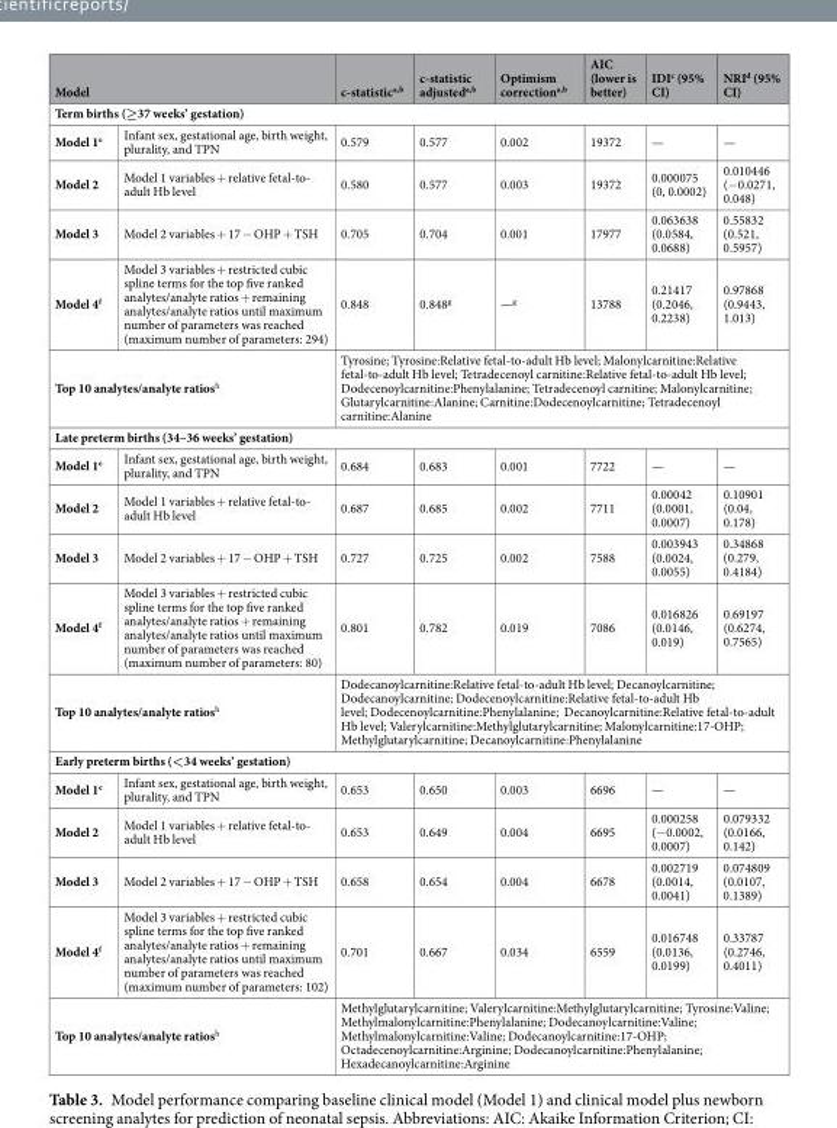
<table><thead><tr><td colspan="2">Model</td><td>c-statistic<sup>a,b</sup></td><td>c-statistic adjusted<sup>a,b</sup></td><td>Optimism correction<sup>a,b</sup></td><td>AIC (lower is better)</td><td>IDI<sup>c</sup> (95% CI)</td><td>NRI<sup>d</sup> (95% CI)</td></tr><tr><td colspan="8">Term births (≥37 weeks’ gestation)</td></tr><tr><td>Model 1<sup>e</sup></td><td>Infant sex, gestational age, birth weight, plurality, and TPN</td><td>0.579</td><td>0.577</td><td>0.002</td><td>19372</td><td>—</td><td>—</td></tr></thead><tbody><tr><td>Model 2</td><td>Model 1 variables + relative fetal-to- adult Hb level</td><td>0.580</td><td>0.577</td><td>0.003</td><td>19372</td><td>0.000075 (0, 0.0002)</td><td>0.010446 (−0.0271, 0.048)</td></tr><tr><td>Model 3</td><td>Model 2 variables + 17 − OHP + TSH</td><td>0.705</td><td>0.704</td><td>0.001</td><td>17977</td><td>0.063638 (0.0584, 0.0688)</td><td>0.55832 (0.521, 0.5957)</td></tr><tr><td>Model 4<sup>f</sup></td><td>Model 3 variables + restricted cubic spline terms for the top five ranked analytes/analyte ratios + remaining analytes/analyte ratios until maximum number of parameters was reached (maximum number of parameters: 294)</td><td>0.848</td><td>0.848<sup>g</sup></td><td>—<sup>g</sup></td><td>13788</td><td>0.21417 (0.2046, 0.2238)</td><td>0.97868 (0.9443, 1.013)</td></tr><tr><td colspan="2">Top 10 analytes/analyte ratios<sup>h</sup></td><td colspan="6">Tyrosine; Tyrosine:Relative fetal-to-adult Hb level; Malonylcarnitine:Relative fetal-to-adult Hb level; Tetradecenoyl carnitine:Relative fetal-to-adult Hb level; Dodecenoylcarnitine:Phenylalanine; Tetradecenoyl carnitine; Malonylcarnitine; Glutarylcarnitine:Alanine; Carnitine:Dodecenoylcarnitine; Tetradecenoyl carnitine:Alanine</td></tr><tr><td colspan="8">Late preterm births (34–36 weeks’ gestation)</td></tr><tr><td>Model 1<sup>e</sup></td><td>Infant sex, gestational age, birth weight, plurality, and TPN</td><td>0.684</td><td>0.683</td><td>0.001</td><td>7722</td><td>—</td><td>—</td></tr><tr><td>Model 2</td><td>Model 1 variables + relative fetal-to- adult Hb level</td><td>0.687</td><td>0.685</td><td>0.002</td><td>7711</td><td>0.00042 (0.0001, 0.0007)</td><td>0.10901 (0.04, 0.178)</td></tr><tr><td>Model 3</td><td>Model 2 variables + 17 − OHP + TSH</td><td>0.727</td><td>0.725</td><td>0.002</td><td>7588</td><td>0.003943 (0.0024, 0.0055)</td><td>0.34868 (0.279, 0.4184)</td></tr><tr><td>Model 4<sup>f</sup></td><td>Model 3 variables + restricted cubic spline terms for the top five ranked analytes/analyte ratios + remaining analytes/analyte ratios until maximum number of parameters was reached (maximum number of parameters: 80)</td><td>0.801</td><td>0.782</td><td>0.019</td><td>7086</td><td>0.016826 (0.0146, 0.019)</td><td>0.69197 (0.6274, 0.7565)</td></tr><tr><td colspan="2">Top 10 analytes/analyte ratios<sup>h</sup></td><td colspan="6">Dodecanoylcarnitine:Relative fetal-to-adult Hb level; Decanoylcarnitine; Dodecanoylcarnitine; Dodecenoylcarnitine:Relative fetal-to-adult Hb level; Dodecenoylcarnitine:Phenylalanine; Decanoylcarnitine:Relative fetal-to-adult Hb level; Valerylcarnitine:Methylglutarylcarnitine; Malonylcarnitine:17-OHP; Methylglutarylcarnitine; Decanoylcarnitine:Phenylalanine</td></tr><tr><td colspan="8">Early preterm births (&lt;34 weeks’ gestation)</td></tr><tr><td>Model 1<sup>e</sup></td><td>Infant sex, gestational age, birth weight, plurality, and TPN</td><td>0.653</td><td>0.650</td><td>0.003</td><td>6696</td><td>—</td><td>—</td></tr><tr><td>Model 2</td><td>Model 1 variables + relative fetal-to- adult Hb level</td><td>0.653</td><td>0.649</td><td>0.004</td><td>6695</td><td>0.000258 (−0.0002, 0.0007)</td><td>0.079332 (0.0166, 0.142)</td></tr><tr><td>Model 3</td><td>Model 2 variables + 17 − OHP + TSH</td><td>0.658</td><td>0.654</td><td>0.004</td><td>6678</td><td>0.002719 (0.0014, 0.0041)</td><td>0.074809 (0.0107, 0.1389)</td></tr><tr><td>Model 4<sup>f</sup></td><td>Model 3 variables + restricted cubic spline terms for the top five ranked analytes/analyte ratios + remaining analytes/analyte ratios until maximum number of parameters was reached (maximum number of parameters: 102)</td><td>0.701</td><td>0.667</td><td>0.034</td><td>6559</td><td>0.016748 (0.0136, 0.0199)</td><td>0.33787 (0.2746, 0.4011)</td></tr><tr><td colspan="2">Top 10 analytes/analyte ratios<sup>h</sup></td><td colspan="6">Methylglutarylcarnitine; Valerylcarnitine:Methylglutarylcarnitine; Tyrosine:Valine; Methylmalonylcarnitine:Phenylalanine; Dodecanoylcarnitine:Valine; Methylmalonylcarnitine:Valine; Dodecanoylcarnitine:17-OHP; Octadecenoylcarnitine:Arginine; Dodecanoylcarnitine:Phenylalanine; Hexadecanoylcarnitine:Arginine</td></tr></tbody></table>